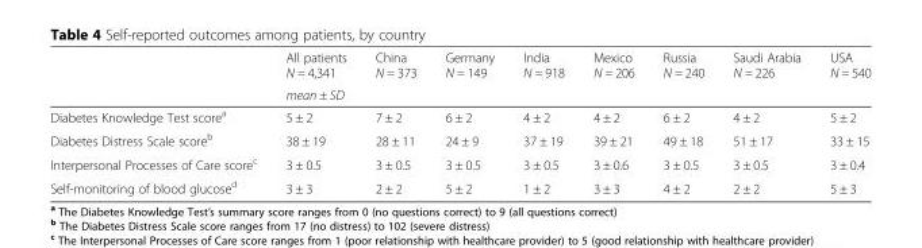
<table><thead><tr><td rowspan="2"></td><td>All patients N = 4,341</td><td>China N = 373</td><td>Germany N = 149</td><td>India N = 918</td><td>Mexico N = 206</td><td>Russia N = 240</td><td>Saudi Arabia N = 226</td><td>USA N = 540</td></tr><tr><td colspan="8">mean ± SD</td></tr></thead><tbody><tr><td>Diabetes Knowledge Test score<sup>a</sup></td><td>5 ± 2</td><td>7 ± 2</td><td>6 ± 2</td><td>4 ± 2</td><td>4 ± 2</td><td>6 ± 2</td><td>4 ± 2</td><td>5 ± 2</td></tr><tr><td>Diabetes Distress Scale score<sup>b</sup></td><td>38 ± 19</td><td>28 ± 11</td><td>24 ± 9</td><td>37 ± 19</td><td>39 ± 21</td><td>49 ± 18</td><td>51 ± 17</td><td>33 ± 15</td></tr><tr><td>Interpersonal Processes of Care score<sup>c</sup></td><td>3 ± 0.5</td><td>3 ± 0.5</td><td>3 ± 0.5</td><td>3 ± 0.5</td><td>3 ± 0.6</td><td>3 ± 0.5</td><td>3 ± 0.5</td><td>3 ± 0.4</td></tr><tr><td>Self-monitoring of blood glucose<sup>d</sup></td><td>3 ± 3</td><td>2 ± 2</td><td>5 ± 2</td><td>1 ± 2</td><td>3 ± 3</td><td>4 ± 2</td><td>2 ± 2</td><td>5 ± 3</td></tr></tbody></table>